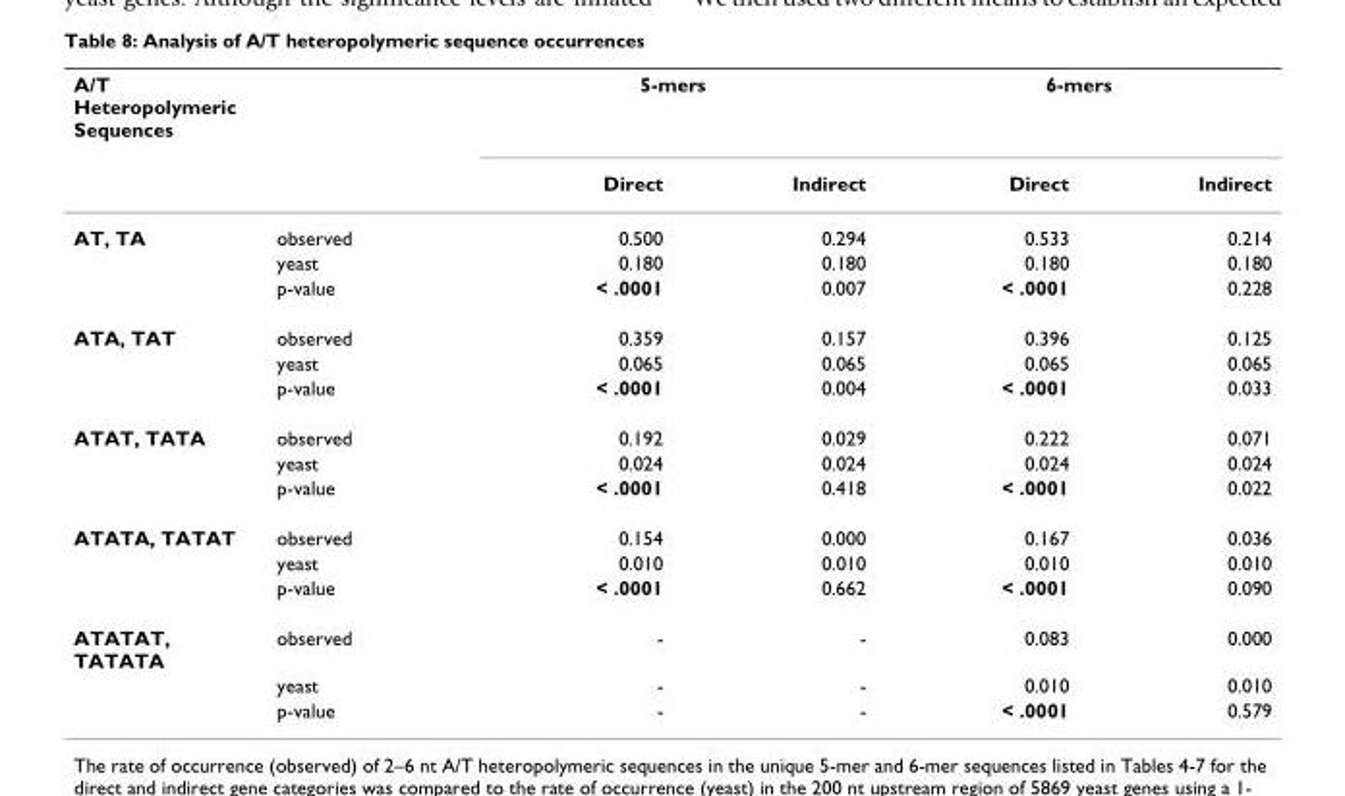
<table><thead><tr><td rowspan="2">A/T Heteropolymeric Sequences</td><td rowspan="2"></td><td colspan="2">5-mers</td><td colspan="2">6-mers</td></tr><tr><td>Direct</td><td>Indirect</td><td>Direct</td><td>Indirect</td></tr></thead><tbody><tr><td rowspan="3">AT, TA</td><td>observed</td><td>0.500</td><td>0.294</td><td>0.533</td><td>0.214</td></tr><tr><td>yeast</td><td>0.180</td><td>0.180</td><td>0.180</td><td>0.180</td></tr><tr><td>p-value</td><td>&lt; .0001</td><td>0.007</td><td>&lt; .0001</td><td>0.228</td></tr><tr><td rowspan="3">ATA, TAT</td><td>observed</td><td>0.359</td><td>0.157</td><td>0.396</td><td>0.125</td></tr><tr><td>yeast</td><td>0.065</td><td>0.065</td><td>0.065</td><td>0.065</td></tr><tr><td>p-value</td><td>&lt; .0001</td><td>0.004</td><td>&lt; .0001</td><td>0.033</td></tr><tr><td rowspan="3">ATAT, TATA</td><td>observed</td><td>0.192</td><td>0.029</td><td>0.222</td><td>0.071</td></tr><tr><td>yeast</td><td>0.024</td><td>0.024</td><td>0.024</td><td>0.024</td></tr><tr><td>p-value</td><td>&lt; .0001</td><td>0.418</td><td>&lt; .0001</td><td>0.022</td></tr><tr><td rowspan="3">ATATA, TATAT</td><td>observed</td><td>0.154</td><td>0.000</td><td>0.167</td><td>0.036</td></tr><tr><td>yeast</td><td>0.010</td><td>0.010</td><td>0.010</td><td>0.010</td></tr><tr><td>p-value</td><td>&lt; .0001</td><td>0.662</td><td>&lt; .0001</td><td>0.090</td></tr><tr><td rowspan="3">ATATAT, TATATA</td><td>observed</td><td>-</td><td>-</td><td>0.083</td><td>0.000</td></tr><tr><td>yeast</td><td>-</td><td>-</td><td>0.010</td><td>0.010</td></tr><tr><td>p-value</td><td>-</td><td>-</td><td>&lt; .0001</td><td>0.579</td></tr></tbody></table>